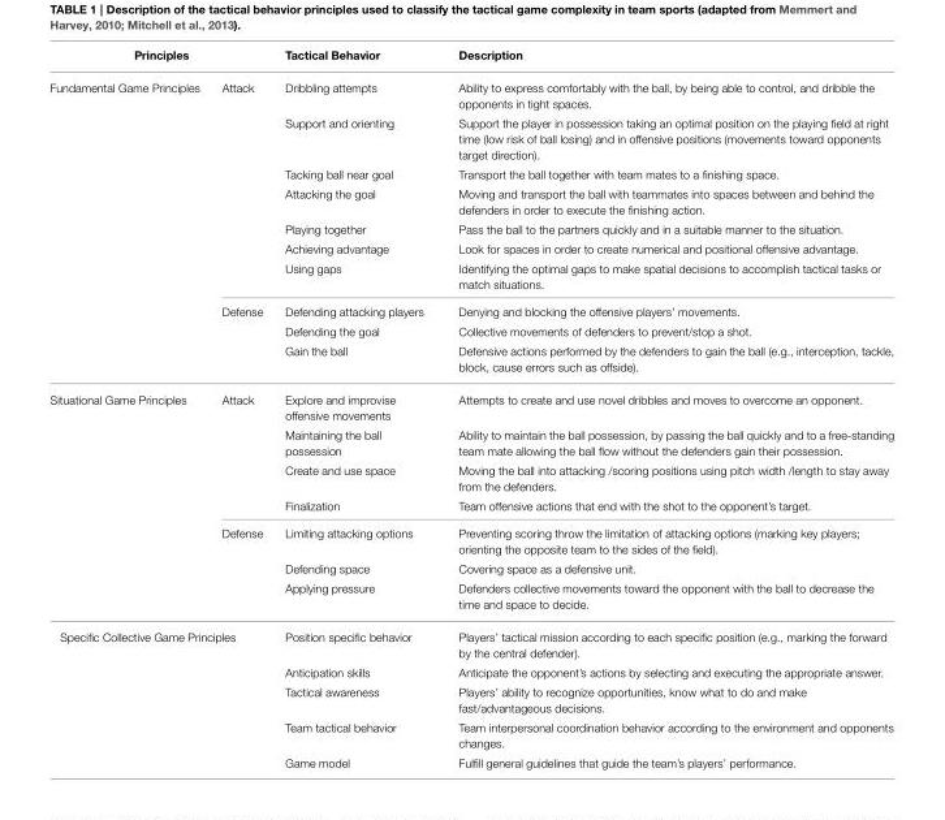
<table><thead><tr><td colspan="2">Principles</td><td rowspan="2">Tactical Behavior Dribbling attempts</td><td rowspan="2">Description Ability to express comfortably with the ball, by being able to control, and dribble the opponents in tight spaces.</td></tr><tr><td>Fundamental Game Principles</td><td>Attack</td></tr></thead><tbody><tr><td></td><td></td><td>Support and orienting</td><td>Support the player in possession taking an optimal position on the playing field at right time (low risk of ball losing) and in offensive positions (movements toward opponents target direction).</td></tr><tr><td></td><td></td><td>Tacking ball near goal</td><td>Transport the ball together with team mates to a finishing space.</td></tr><tr><td></td><td></td><td>Attacking the goal</td><td>Moving and transport the ball with teammates into spaces between and behind the defenders in order to execute the finishing action.</td></tr><tr><td></td><td></td><td>Playing together</td><td>Pass the ball to the partners quickly and in a suitable manner to the situation.</td></tr><tr><td></td><td></td><td>Achieving advantage</td><td>Look for spaces in order to create numerical and positional offensive advantage.</td></tr><tr><td></td><td></td><td>Using gaps</td><td>Identifying the optimal gaps to make spatial decisions to accomplish tactical tasks or match situations.</td></tr><tr><td></td><td>Defense</td><td>Defending attacking players</td><td>Denying and blocking the offensive players’ movements.</td></tr><tr><td></td><td></td><td>Defending the goal</td><td>Collective movements of defenders to prevent/stop a shot.</td></tr><tr><td></td><td></td><td>Gain the ball</td><td>Defensive actions performed by the defenders to gain the ball (e.g., interception, tackle, block, cause errors such as offside).</td></tr><tr><td rowspan="7">Situational Game Principles</td><td>Attack</td><td>Explore and improvise offensive movements</td><td>Attempts to create and use novel dribbles and moves to overcome an opponent.</td></tr><tr><td></td><td>Maintaining the ball possession</td><td>Ability to maintain the ball possession, by passing the ball quickly and to a free-standing team mate allowing the ball flow without the defenders gain their possession.</td></tr><tr><td></td><td>Create and use space</td><td>Moving the ball into attacking /scoring positions using pitch width /length to stay away from the defenders.</td></tr><tr><td></td><td>Finalization</td><td>Team offensive actions that end with the shot to the opponent’s target.</td></tr><tr><td>Defense</td><td>Limiting attacking options</td><td>Preventing scoring throw the limitation of attacking options (marking key players; orienting the opposite team to the sides of the field).</td></tr><tr><td></td><td>Defending space</td><td>Covering space as a defensive unit.</td></tr><tr><td></td><td>Applying pressure</td><td>Defenders collective movements toward the opponent with the ball to decrease the time and space to decide.</td></tr><tr><td colspan="2">Specific Collective Game Principles</td><td>Position specific behavior</td><td>Players’ tactical mission according to each specific position (e.g., marking the forward by the central defender).</td></tr><tr><td></td><td></td><td>Anticipation skills</td><td>Anticipate the opponent’s actions by selecting and executing the appropriate answer.</td></tr><tr><td></td><td></td><td>Tactical awareness</td><td>Players’ ability to recognize opportunities, know what to do and make fast/advantageous decisions.</td></tr><tr><td></td><td></td><td>Team tactical behavior</td><td>Team interpersonal coordination behavior according to the environment and opponents changes.</td></tr><tr><td></td><td></td><td>Game model</td><td>Fulfill general guidelines that guide the team’s players’ performance.</td></tr></tbody></table>